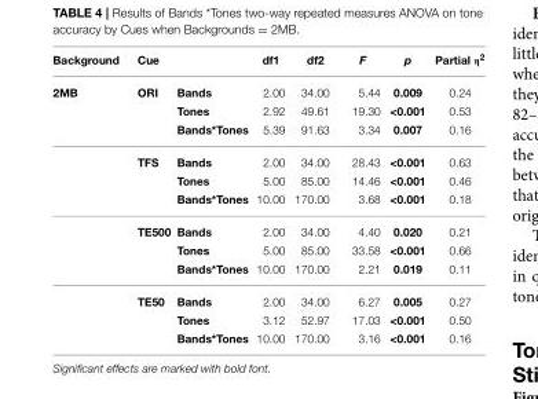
<table><thead><tr><td>Background</td><td>Cue</td><td></td><td>df1</td><td>df2</td><td>F</td><td>p</td><td>Partial η<sup>2</sup></td></tr></thead><tbody><tr><td rowspan="12">2MB</td><td>ORI</td><td>Bands</td><td>2.00</td><td>34.00</td><td>5.44</td><td>0.009</td><td>0.24</td></tr><tr><td></td><td>Tones</td><td>2.92</td><td>49.61</td><td>19.30</td><td>&lt;0.001</td><td>0.53</td></tr><tr><td></td><td>Bands*Tones</td><td>5.39</td><td>91.63</td><td>3.34</td><td>0.007</td><td>0.16</td></tr><tr><td>TFS</td><td>Bands</td><td>2.00</td><td>34.00</td><td>28.43</td><td>&lt;0.001</td><td>0.63</td></tr><tr><td></td><td>Tones</td><td>5.00</td><td>85.00</td><td>14.46</td><td>&lt;0.001</td><td>0.46</td></tr><tr><td></td><td>Bands*Tones</td><td>10.00</td><td>170.00</td><td>3.68</td><td>&lt;0.001</td><td>0.18</td></tr><tr><td>TE500</td><td>Bands</td><td>2.00</td><td>34.00</td><td>4.40</td><td>0.020</td><td>0.21</td></tr><tr><td></td><td>Tones</td><td>5.00</td><td>85.00</td><td>33.58</td><td>&lt;0.001</td><td>0.66</td></tr><tr><td></td><td>Bands*Tones</td><td>10.00</td><td>170.00</td><td>2.21</td><td>0.019</td><td>0.11</td></tr><tr><td>TE50</td><td>Bands</td><td>2.00</td><td>34.00</td><td>6.27</td><td>0.005</td><td>0.27</td></tr><tr><td></td><td>Tones</td><td>3.12</td><td>52.97</td><td>17.03</td><td>&lt;0.001</td><td>0.50</td></tr><tr><td></td><td>Bands*Tones</td><td>10.00</td><td>170.00</td><td>3.16</td><td>&lt;0.001</td><td>0.16</td></tr></tbody></table>